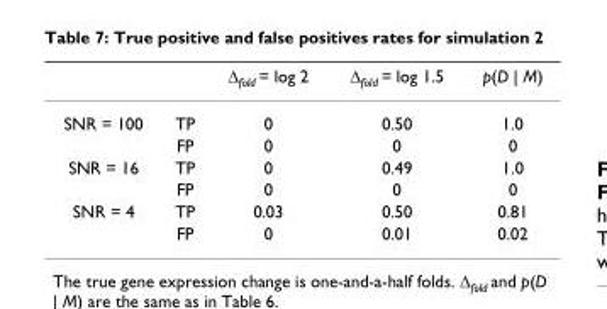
<table><thead><tr><td></td><td></td><td>∆fold = log 2</td><td>∆fold = log 1.5</td><td>p(D | M)</td></tr></thead><tbody><tr><td rowspan="2">SNR = 100</td><td>TP</td><td>0</td><td>0.50</td><td>1.0</td></tr><tr><td>FP</td><td>0</td><td>0</td><td>0</td></tr><tr><td rowspan="2">SNR = 16</td><td>TP</td><td>0</td><td>0.49</td><td>1.0</td></tr><tr><td>FP</td><td>0</td><td>0</td><td>0</td></tr><tr><td rowspan="2">SNR = 4</td><td>TP</td><td>0.03</td><td>0.50</td><td>0.81</td></tr><tr><td>FP</td><td>0</td><td>0.01</td><td>0.02</td></tr></tbody></table>